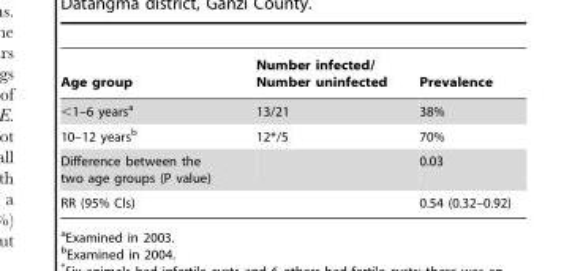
<table><thead><tr><td>Age group</td><td>Number infected/ Number uninfected</td><td>Prevalence</td></tr></thead><tbody><tr><td>&lt;1–6 years<sup>a</sup></td><td>13/21</td><td>38%</td></tr><tr><td>10–12 years<sup>b</sup></td><td>12*/5</td><td>70%</td></tr><tr><td>Difference between the two age groups (P value)</td><td></td><td>0.03</td></tr><tr><td>RR (95% Cls)</td><td></td><td>0.54 (0.32–0.92)</td></tr></tbody></table>